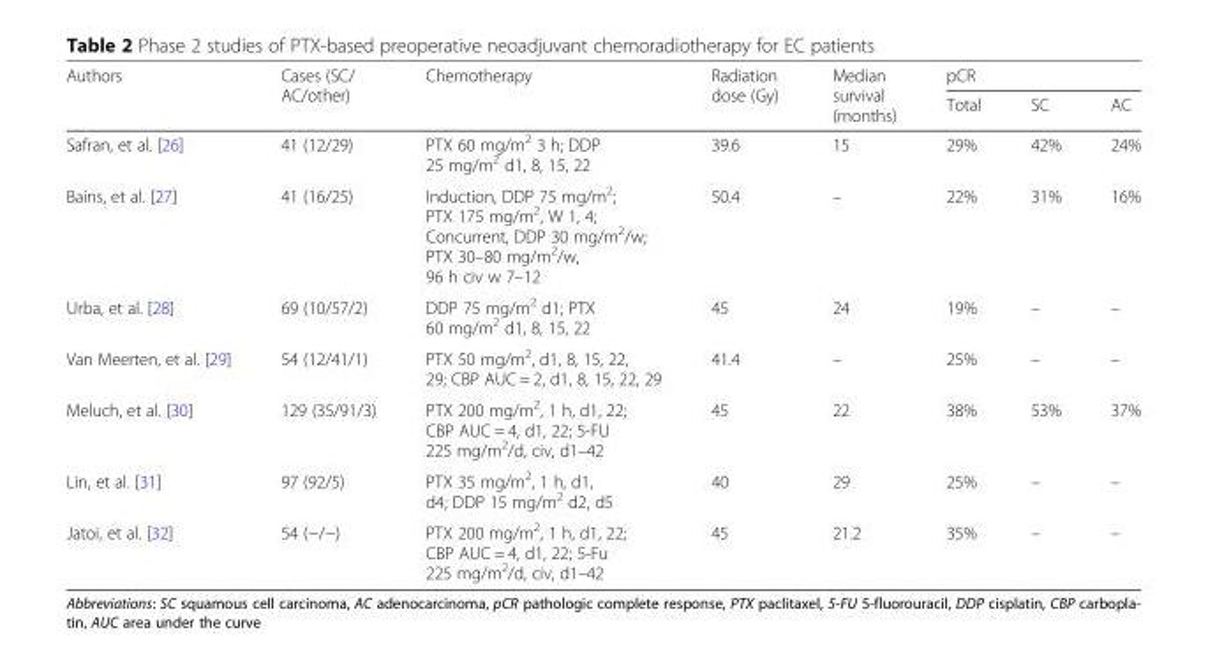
<table><thead><tr><td rowspan="2">Authors</td><td rowspan="2">Cases (SC/ AC/other)</td><td rowspan="2">Chemotherapy</td><td rowspan="2">Radiation dose (Gy)</td><td rowspan="2">Median survival (months)</td><td colspan="3">pCR</td></tr><tr><td>Total</td><td>SC</td><td>AC</td></tr></thead><tbody><tr><td>Safran, et al. [26]</td><td>41 (12/29)</td><td>PTX 60 mg/m<sup>2</sup> 3 h; DDP 25 mg/m<sup>2</sup> d1, 8, 15, 22</td><td>39.6</td><td>15</td><td>29%</td><td>42%</td><td>24%</td></tr><tr><td>Bains, et al. [27]</td><td>41 (16/25)</td><td>Induction, DDP 75 mg/m<sup>2</sup>; PTX 175 mg/m<sup>2</sup>, W 1, 4; Concurrent, DDP 30 mg/m<sup>2</sup>/w; PTX 30–80 mg/m<sup>2</sup>/w, 96 h civ w 7–12</td><td>50.4</td><td>–</td><td>22%</td><td>31%</td><td>16%</td></tr><tr><td>Urba, et al. [28]</td><td>69 (10/57/2)</td><td>DDP 75 mg/m<sup>2</sup> d1; PTX 60 mg/m<sup>2</sup> d1, 8, 15, 22</td><td>45</td><td>24</td><td>19%</td><td>–</td><td>–</td></tr><tr><td>Van Meerten, et al. [29]</td><td>54 (12/41/1)</td><td>PTX 50 mg/m<sup>2</sup>, d1, 8, 15, 22, 29; CBP AUC = 2, d1, 8, 15, 22, 29</td><td>41.4</td><td>–</td><td>25%</td><td>–</td><td>–</td></tr><tr><td>Meluch, et al. [30]</td><td>129 (35/91/3)</td><td>PTX 200 mg/m<sup>2</sup>, 1 h, d1, 22; CBP AUC = 4, d1, 22; 5-FU 225 mg/m<sup>2</sup>/d, civ, d1–42</td><td>45</td><td>22</td><td>38%</td><td>53%</td><td>37%</td></tr><tr><td>Lin, et al. [31]</td><td>97 (92/5)</td><td>PTX 35 mg/m<sup>2</sup>, 1 h, d1, d4; DDP 15 mg/m<sup>2</sup> d2, d5</td><td>40</td><td>29</td><td>25%</td><td>–</td><td>–</td></tr><tr><td>Jatoi, et al. [32]</td><td>54 (−/−)</td><td>PTX 200 mg/m<sup>2</sup>, 1 h, d1, 22; CBP AUC = 4, d1, 22; 5-Fu 225 mg/m<sup>2</sup>/d, civ, d1–42</td><td>45</td><td>21.2</td><td>35%</td><td>–</td><td>–</td></tr></tbody></table>